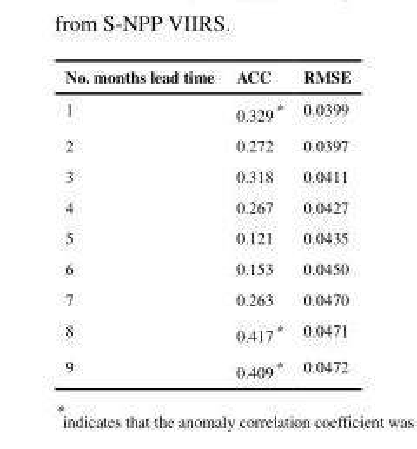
<table><thead><tr><td>No. months lead time</td><td>ACC</td><td>RMSE</td></tr></thead><tbody><tr><td>1</td><td>0.329*</td><td>0.0399</td></tr><tr><td>2</td><td>0.272</td><td>0.0397</td></tr><tr><td>3</td><td>0.318</td><td>0.0411</td></tr><tr><td>4</td><td>0.267</td><td>0.0427</td></tr><tr><td>5</td><td>0.121</td><td>0.0435</td></tr><tr><td>6</td><td>0.153</td><td>0.0450</td></tr><tr><td>7</td><td>0.263</td><td>0.0470</td></tr><tr><td>8</td><td>0.417*</td><td>0.0471</td></tr><tr><td>9</td><td>0.409*</td><td>0.0472</td></tr></tbody></table>